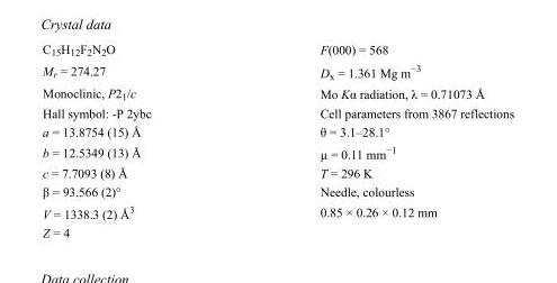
<table><tbody><tr><td>C<sub>15</sub>H<sub>12</sub>F<sub>2</sub>N<sub>2</sub>O</td><td>F(000) = 568</td></tr><tr><td>M<sub>r</sub> = 274.27</td><td>D<sub>x</sub> = 1.361 Mg m<sup>−3</sup></td></tr><tr><td>Monoclinic, P2<sub>1</sub>/c</td><td>Mo Kα radiation, λ = 0.71073 Å</td></tr><tr><td>Hall symbol: -P 2ybc</td><td>Cell parameters from 3867 reflections</td></tr><tr><td>a = 13.8754 (15) Å</td><td>θ = 3.1–28.1°</td></tr><tr><td>b = 12.5349 (13) Å</td><td>µ = 0.11 mm<sup>−1</sup></td></tr><tr><td>c = 7.7093 (8) Å</td><td>T = 296 K</td></tr><tr><td>β = 93.566 (2)°</td><td>Needle, colourless</td></tr><tr><td>V = 1338.3 (2) Å<sup>3</sup></td><td>0.85 × 0.26 × 0.12 mm</td></tr><tr><td>Z = 4</td><td></td></tr></tbody></table>